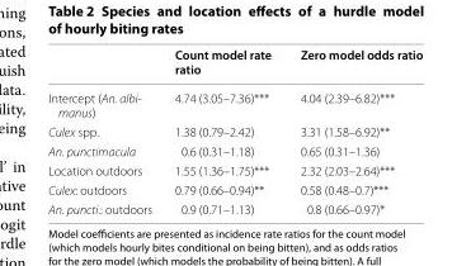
<table><thead><tr><td></td><td>Count model rate ratio</td><td>Zero model odds ratio</td></tr></thead><tbody><tr><td>Intercept (An. albi- manus)</td><td>4.74 (3.05–7.36)***</td><td>4.04 (2.39–6.82)***</td></tr><tr><td>Culex spp.</td><td>1.38 (0.79–2.42)</td><td>3.31 (1.58–6.92)**</td></tr><tr><td>An. punctimacula</td><td>0.6 (0.31–1.18)</td><td>0.65 (0.31–1.36)</td></tr><tr><td>Location outdoors</td><td>1.55 (1.36–1.75)***</td><td>2.32 (2.03–2.64)***</td></tr><tr><td>Culex: outdoors</td><td>0.79 (0.66–0.94)**</td><td>0.58 (0.48–0.7)***</td></tr><tr><td>An. puncti.: outdoors</td><td>0.9 (0.71–1.13)</td><td>0.8 (0.66–0.97)*</td></tr></tbody></table>